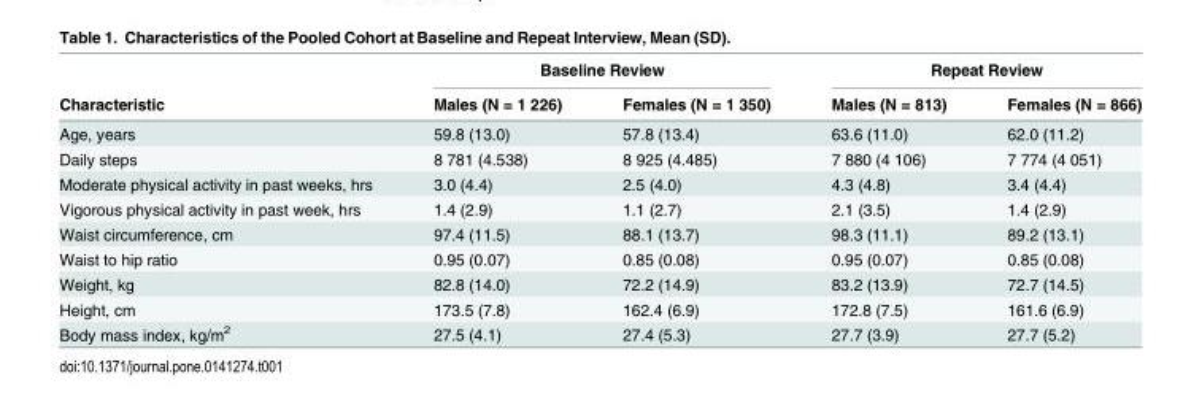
<table><thead><tr><td rowspan="2">Characteristic</td><td colspan="2">Baseline Review</td><td colspan="2">Repeat Review</td></tr><tr><td>Males (N = 1 226)</td><td>Females (N = 1 350)</td><td>Males (N = 813)</td><td>Females (N = 866)</td></tr></thead><tbody><tr><td>Age, years</td><td>59.8 (13.0)</td><td>57.8 (13.4)</td><td>63.6 (11.0)</td><td>62.0 (11.2)</td></tr><tr><td>Daily steps</td><td>8 781 (4.538)</td><td>8 925 (4.485)</td><td>7 880 (4 106)</td><td>7 774 (4 051)</td></tr><tr><td>Moderate physical activity in past weeks, hrs</td><td>3.0 (4.4)</td><td>2.5 (4.0)</td><td>4.3 (4.8)</td><td>3.4 (4.4)</td></tr><tr><td>Vigorous physical activity in past week, hrs</td><td>1.4 (2.9)</td><td>1.1 (2.7)</td><td>2.1 (3.5)</td><td>1.4 (2.9)</td></tr><tr><td>Waist circumference, cm</td><td>97.4 (11.5)</td><td>88.1 (13.7)</td><td>98.3 (11.1)</td><td>89.2 (13.1)</td></tr><tr><td>Waist to hip ratio</td><td>0.95 (0.07)</td><td>0.85 (0.08)</td><td>0.95 (0.07)</td><td>0.85 (0.08)</td></tr><tr><td>Weight, kg</td><td>82.8 (14.0)</td><td>72.2 (14.9)</td><td>83.2 (13.9)</td><td>72.7 (14.5)</td></tr><tr><td>Height, cm</td><td>173.5 (7.8)</td><td>162.4 (6.9)</td><td>172.8 (7.5)</td><td>161.6 (6.9)</td></tr><tr><td>Body mass index, kg/m<sup>2</sup></td><td>27.5 (4.1)</td><td>27.4 (5.3)</td><td>27.7 (3.9)</td><td>27.7 (5.2)</td></tr></tbody></table>